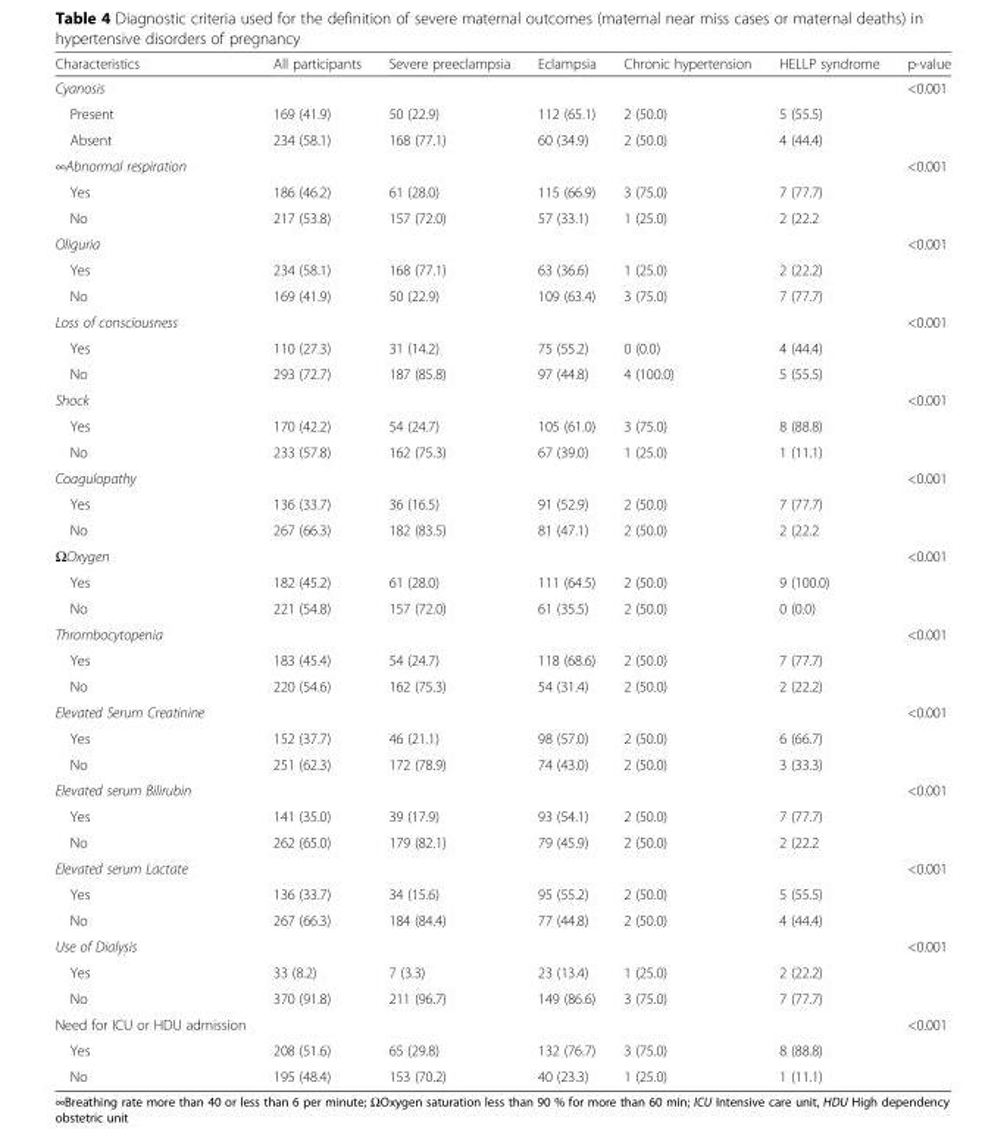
<table><thead><tr><td>Characteristics</td><td>All participants</td><td>Severe preeclampsia</td><td>Eclampsia</td><td>Chronic hypertension</td><td>HELLP syndrome</td><td>p-value</td></tr></thead><tbody><tr><td>Cyanosis</td><td></td><td></td><td></td><td></td><td></td><td>&lt;0.001</td></tr><tr><td>Present</td><td>169 (41.9)</td><td>50 (22.9)</td><td>112 (65.1)</td><td>2 (50.0)</td><td>5 (55.5)</td><td rowspan="2"></td></tr><tr><td>Absent</td><td>234 (58.1)</td><td>168 (77.1)</td><td>60 (34.9)</td><td>2 (50.0)</td><td>4 (44.4)</td></tr><tr><td>∞Abnormal respiration</td><td></td><td></td><td></td><td></td><td></td><td>&lt;0.001</td></tr><tr><td>Yes</td><td>186 (46.2)</td><td>61 (28.0)</td><td>115 (66.9)</td><td>3 (75.0)</td><td>7 (77.7)</td><td rowspan="2"></td></tr><tr><td>No</td><td>217 (53.8)</td><td>157 (72.0)</td><td>57 (33.1)</td><td>1 (25.0)</td><td>2 (22.2</td></tr><tr><td>Oliguria</td><td></td><td></td><td></td><td></td><td></td><td>&lt;0.001</td></tr><tr><td>Yes</td><td>234 (58.1)</td><td>168 (77.1)</td><td>63 (36.6)</td><td>1 (25.0)</td><td>2 (22.2)</td><td rowspan="2"></td></tr><tr><td>No</td><td>169 (41.9)</td><td>50 (22.9)</td><td>109 (63.4)</td><td>3 (75.0)</td><td>7 (77.7)</td></tr><tr><td>Loss of consciousness</td><td></td><td></td><td></td><td></td><td></td><td>&lt;0.001</td></tr><tr><td>Yes</td><td>110 (27.3)</td><td>31 (14.2)</td><td>75 (55.2)</td><td>0 (0.0)</td><td>4 (44.4)</td><td rowspan="2"></td></tr><tr><td>No</td><td>293 (72.7)</td><td>187 (85.8)</td><td>97 (44.8)</td><td>4 (100.0)</td><td>5 (55.5)</td></tr><tr><td>Shock</td><td></td><td></td><td></td><td></td><td></td><td>&lt;0.001</td></tr><tr><td>Yes</td><td>170 (42.2)</td><td>54 (24.7)</td><td>105 (61.0)</td><td>3 (75.0)</td><td>8 (88.8)</td><td rowspan="2"></td></tr><tr><td>No</td><td>233 (57.8)</td><td>162 (75.3)</td><td>67 (39.0)</td><td>1 (25.0)</td><td>1 (11.1)</td></tr><tr><td>Coagulopathy</td><td></td><td></td><td></td><td></td><td></td><td>&lt;0.001</td></tr><tr><td>Yes</td><td>136 (33.7)</td><td>36 (16.5)</td><td>91 (52.9)</td><td>2 (50.0)</td><td>7 (77.7)</td><td rowspan="2"></td></tr><tr><td>No</td><td>267 (66.3)</td><td>182 (83.5)</td><td>81 (47.1)</td><td>2 (50.0)</td><td>2 (22.2</td></tr><tr><td>ΩOxygen</td><td></td><td></td><td></td><td></td><td></td><td>&lt;0.001</td></tr><tr><td>Yes</td><td>182 (45.2)</td><td>61 (28.0)</td><td>111 (64.5)</td><td>2 (50.0)</td><td>9 (100.0)</td><td rowspan="2"></td></tr><tr><td>No</td><td>221 (54.8)</td><td>157 (72.0)</td><td>61 (35.5)</td><td>2 (50.0)</td><td>0 (0.0)</td></tr><tr><td>Thrombocytopenia</td><td></td><td></td><td></td><td></td><td></td><td>&lt;0.001</td></tr><tr><td>Yes</td><td>183 (45.4)</td><td>54 (24.7)</td><td>118 (68.6)</td><td>2 (50.0)</td><td>7 (77.7)</td><td rowspan="2"></td></tr><tr><td>No</td><td>220 (54.6)</td><td>162 (75.3)</td><td>54 (31.4)</td><td>2 (50.0)</td><td>2 (22.2)</td></tr><tr><td>Elevated Serum Creatinine</td><td></td><td></td><td></td><td></td><td></td><td>&lt;0.001</td></tr><tr><td>Yes</td><td>152 (37.7)</td><td>46 (21.1)</td><td>98 (57.0)</td><td>2 (50.0)</td><td>6 (66.7)</td><td rowspan="2"></td></tr><tr><td>No</td><td>251 (62.3)</td><td>172 (78.9)</td><td>74 (43.0)</td><td>2 (50.0)</td><td>3 (33.3)</td></tr><tr><td>Elevated serum Bilirubin</td><td></td><td></td><td></td><td></td><td></td><td>&lt;0.001</td></tr><tr><td>Yes</td><td>141 (35.0)</td><td>39 (17.9)</td><td>93 (54.1)</td><td>2 (50.0)</td><td>7 (77.7)</td><td rowspan="2"></td></tr><tr><td>No</td><td>262 (65.0)</td><td>179 (82.1)</td><td>79 (45.9)</td><td>2 (50.0)</td><td>2 (22.2</td></tr><tr><td>Elevated serum Lactate</td><td></td><td></td><td></td><td></td><td></td><td>&lt;0.001</td></tr><tr><td>Yes</td><td>136 (33.7)</td><td>34 (15.6)</td><td>95 (55.2)</td><td>2 (50.0)</td><td>5 (55.5)</td><td rowspan="2"></td></tr><tr><td>No</td><td>267 (66.3)</td><td>184 (84.4)</td><td>77 (44.8)</td><td>2 (50.0)</td><td>4 (44.4)</td></tr><tr><td>Use of Dialysis</td><td></td><td></td><td></td><td></td><td></td><td>&lt;0.001</td></tr><tr><td>Yes</td><td>33 (8.2)</td><td>7 (3.3)</td><td>23 (13.4)</td><td>1 (25.0)</td><td>2 (22.2)</td><td rowspan="2"></td></tr><tr><td>No</td><td>370 (91.8)</td><td>211 (96.7)</td><td>149 (86.6)</td><td>3 (75.0)</td><td>7 (77.7)</td></tr><tr><td>Need for ICU or HDU admission</td><td></td><td></td><td></td><td></td><td></td><td>&lt;0.001</td></tr><tr><td>Yes</td><td>208 (51.6)</td><td>65 (29.8)</td><td>132 (76.7)</td><td>3 (75.0)</td><td>8 (88.8)</td><td rowspan="2"></td></tr><tr><td>No</td><td>195 (48.4)</td><td>153 (70.2)</td><td>40 (23.3)</td><td>1 (25.0)</td><td>1 (11.1)</td></tr></tbody></table>